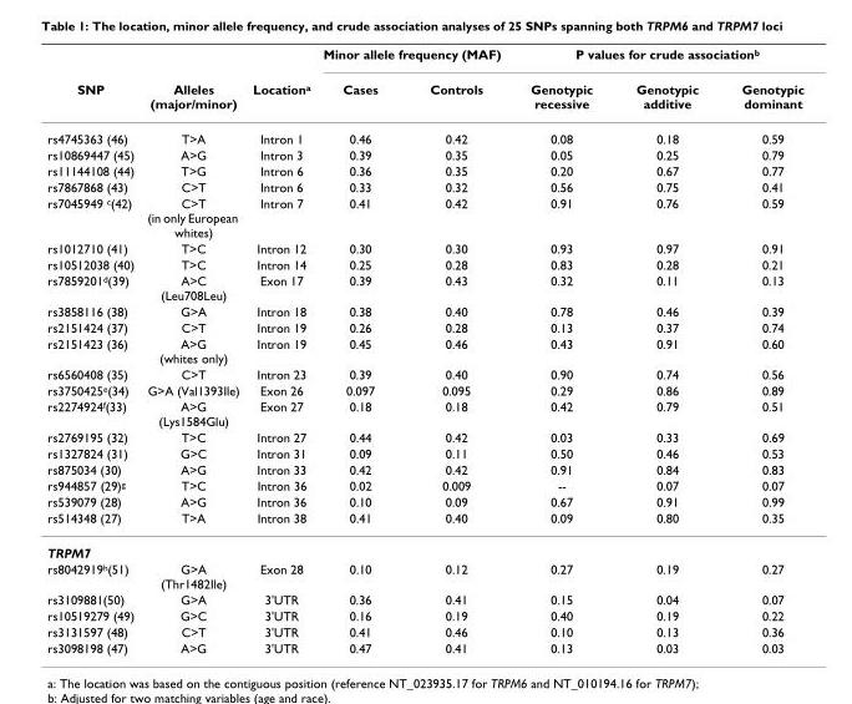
<table><thead><tr><td rowspan="2">SNP</td><td rowspan="2">Alleles (major/minor)</td><td rowspan="2">Location<sup>a</sup></td><td colspan="2">Minor allele frequency (MAF)</td><td colspan="3">P values for crude association<sup>b</sup></td></tr><tr><td>Cases</td><td>Controls</td><td>Genotypic recessive</td><td>Genotypic additive</td><td>Genotypic dominant</td></tr></thead><tbody><tr><td>rs4745363 (46)</td><td>T&gt;A</td><td>Intron 1</td><td>0.46</td><td>0.42</td><td>0.08</td><td>0.18</td><td>0.59</td></tr><tr><td>rs10869447 (45)</td><td>A&gt;G</td><td>Intron 3</td><td>0.39</td><td>0.35</td><td>0.05</td><td>0.25</td><td>0.79</td></tr><tr><td>rs11144108 (44)</td><td>T&gt;G</td><td>Intron 6</td><td>0.36</td><td>0.35</td><td>0.20</td><td>0.67</td><td>0.77</td></tr><tr><td>rs7867868 (43)</td><td>C&gt;T</td><td>Intron 6</td><td>0.33</td><td>0.32</td><td>0.56</td><td>0.75</td><td>0.41</td></tr><tr><td>rs7045949 <sup>c</sup>(42)</td><td>C&gt;T (in only European whites)</td><td>Intron 7</td><td>0.41</td><td>0.42</td><td>0.91</td><td>0.76</td><td>0.59</td></tr><tr><td>rs1012710 (41)</td><td>T&gt;C</td><td>Intron 12</td><td>0.30</td><td>0.30</td><td>0.93</td><td>0.97</td><td>0.91</td></tr><tr><td>rs10512038 (40)</td><td>T&gt;C</td><td>Intron 14</td><td>0.25</td><td>0.28</td><td>0.83</td><td>0.28</td><td>0.21</td></tr><tr><td>rs7859201<sup>d</sup>(39)</td><td>A&gt;C (Leu708Leu)</td><td>Exon 17</td><td>0.39</td><td>0.43</td><td>0.32</td><td>0.11</td><td>0.13</td></tr><tr><td>rs3858116 (38)</td><td>G&gt;A</td><td>Intron 18</td><td>0.38</td><td>0.40</td><td>0.78</td><td>0.46</td><td>0.39</td></tr><tr><td>rs2151424 (37)</td><td>C&gt;T</td><td>Intron 19</td><td>0.26</td><td>0.28</td><td>0.13</td><td>0.37</td><td>0.74</td></tr><tr><td>rs2151423 (36)</td><td>A&gt;G (whites only)</td><td>Intron 19</td><td>0.45</td><td>0.46</td><td>0.43</td><td>0.91</td><td>0.60</td></tr><tr><td>rs6560408 (35)</td><td>C&gt;T</td><td>Intron 23</td><td>0.39</td><td>0.40</td><td>0.90</td><td>0.74</td><td>0.56</td></tr><tr><td>rs3750425<sup>e</sup>(34)</td><td>G&gt;A (Val1393Ile)</td><td>Exon 26</td><td>0.097</td><td>0.095</td><td>0.29</td><td>0.86</td><td>0.89</td></tr><tr><td>rs2274924<sup>f</sup>(33)</td><td>A&gt;G (Lys1584Glu)</td><td>Exon 27</td><td>0.18</td><td>0.18</td><td>0.42</td><td>0.79</td><td>0.51</td></tr><tr><td>rs2769195 (32)</td><td>T&gt;C</td><td>Intron 27</td><td>0.44</td><td>0.42</td><td>0.03</td><td>0.33</td><td>0.69</td></tr><tr><td>rs1327824 (31)</td><td>G&gt;C</td><td>Intron 31</td><td>0.09</td><td>0.11</td><td>0.50</td><td>0.46</td><td>0.53</td></tr><tr><td>rs875034 (30)</td><td>A&gt;G</td><td>Intron 33</td><td>0.42</td><td>0.42</td><td>0.91</td><td>0.84</td><td>0.83</td></tr><tr><td>rs944857 (29)<sup>g</sup></td><td>T&gt;C</td><td>Intron 36</td><td>0.02</td><td>0.009</td><td>--</td><td>0.07</td><td>0.07</td></tr><tr><td>rs539079 (28)</td><td>A&gt;G</td><td>Intron 36</td><td>0.10</td><td>0.09</td><td>0.67</td><td>0.91</td><td>0.99</td></tr><tr><td>rs514348 (27)</td><td>T&gt;A</td><td>Intron 38</td><td>0.41</td><td>0.40</td><td>0.09</td><td>0.80</td><td>0.35</td></tr><tr><td colspan="8">TRPM7</td></tr><tr><td>rs8042919<sup>h</sup>(51)</td><td>G&gt;A (Thr1482Ile)</td><td>Exon 28</td><td>0.10</td><td>0.12</td><td>0.27</td><td>0.19</td><td>0.27</td></tr><tr><td>rs3109881(50)</td><td>G&gt;A</td><td>3&#x27;UTR</td><td>0.36</td><td>0.41</td><td>0.15</td><td>0.04</td><td>0.07</td></tr><tr><td>rs10519279 (49)</td><td>G&gt;C</td><td>3&#x27;UTR</td><td>0.16</td><td>0.19</td><td>0.40</td><td>0.19</td><td>0.22</td></tr><tr><td>rs3131597 (48)</td><td>C&gt;T</td><td>3&#x27;UTR</td><td>0.41</td><td>0.46</td><td>0.10</td><td>0.13</td><td>0.36</td></tr><tr><td>rs3098198 (47)</td><td>A&gt;G</td><td>3&#x27;UTR</td><td>0.47</td><td>0.41</td><td>0.13</td><td>0.03</td><td>0.03</td></tr></tbody></table>